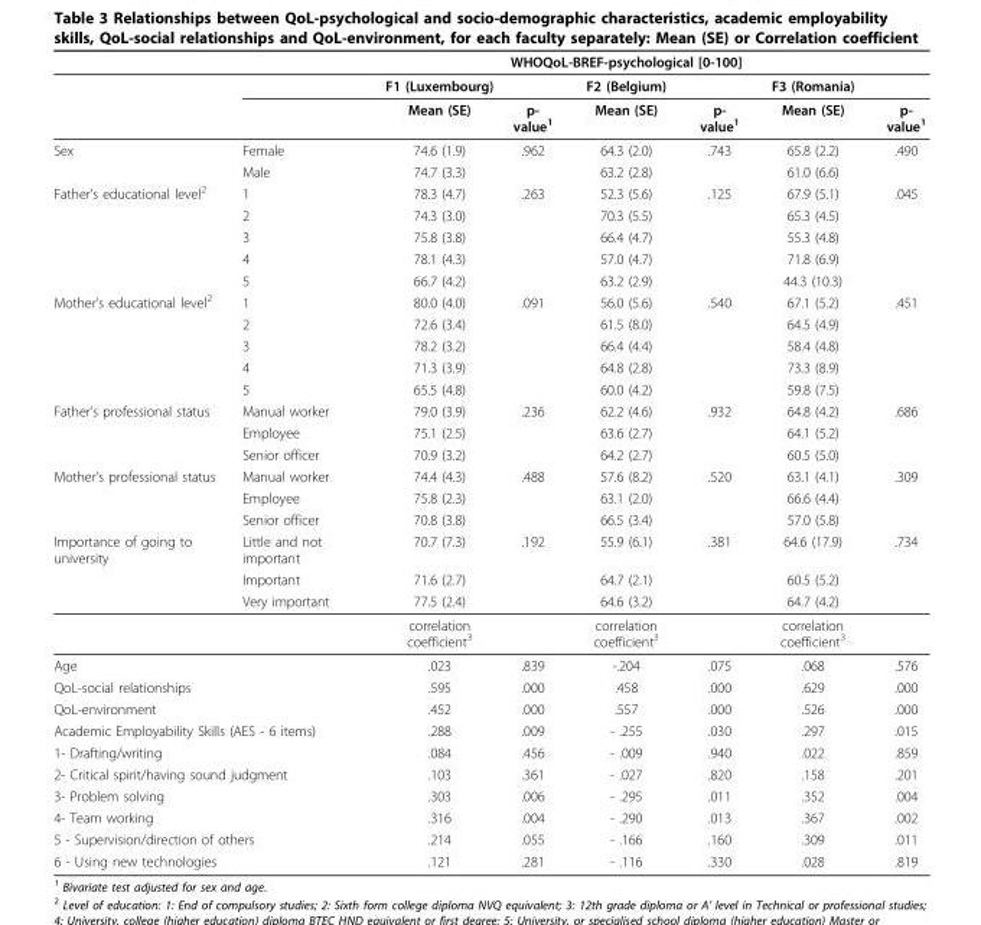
<table><thead><tr><td rowspan="2"></td><td rowspan="2"></td><td colspan="5">WHOQoL-BREF-psychological [0-100]</td><td rowspan="2"></td></tr><tr><td>F1 (Luxembourg)</td><td></td><td>F2 (Belgium)</td><td></td><td>F3 (Romania)</td></tr></thead><tbody><tr><td></td><td></td><td>Mean (SE)</td><td>p- value<sup>1</sup></td><td>Mean (SE)</td><td>p- value<sup>1</sup></td><td>Mean (SE)</td><td>p- value<sup>1</sup></td></tr><tr><td rowspan="2">Sex</td><td>Female</td><td>74.6 (1.9)</td><td>.962</td><td>64.3 (2.0)</td><td>.743</td><td>65.8 (2.2)</td><td>.490</td></tr><tr><td>Male</td><td>74.7 (3.3)</td><td></td><td>63.2 (2.8)</td><td></td><td>61.0 (6.6)</td><td></td></tr><tr><td rowspan="5">Father’s educational level<sup>2</sup></td><td>1</td><td>78.3 (4.7)</td><td>.263</td><td>52.3 (5.6)</td><td>.125</td><td>67.9 (5.1)</td><td>.045</td></tr><tr><td>2</td><td>74.3 (3.0)</td><td></td><td>70.3 (5.5)</td><td></td><td>65.3 (4.5)</td><td></td></tr><tr><td>3</td><td>75.8 (3.8)</td><td></td><td>66.4 (4.7)</td><td></td><td>55.3 (4.8)</td><td></td></tr><tr><td>4</td><td>78.1 (4.3)</td><td></td><td>57.0 (4.7)</td><td></td><td>71.8 (6.9)</td><td></td></tr><tr><td>5</td><td>66.7 (4.2)</td><td></td><td>63.2 (2.9)</td><td></td><td>44.3 (10.3)</td><td></td></tr><tr><td rowspan="5">Mother’s educational level<sup>2</sup></td><td>1</td><td>80.0 (4.0)</td><td>.091</td><td>56.0 (5.6)</td><td>.540</td><td>67.1 (5.2)</td><td>.451</td></tr><tr><td>2</td><td>72.6 (3.4)</td><td></td><td>61.5 (8.0)</td><td></td><td>64.5 (4.9)</td><td></td></tr><tr><td>3</td><td>78.2 (3.2)</td><td></td><td>66.4 (4.4)</td><td></td><td>58.4 (4.8)</td><td></td></tr><tr><td>4</td><td>71.3 (3.9)</td><td></td><td>64.8 (2.8)</td><td></td><td>73.3 (8.9)</td><td></td></tr><tr><td>5</td><td>65.5 (4.8)</td><td></td><td>60.0 (4.2)</td><td></td><td>59.8 (7.5)</td><td></td></tr><tr><td rowspan="3">Father’s professional status</td><td>Manual worker</td><td>79.0 (3.9)</td><td>.236</td><td>62.2 (4.6)</td><td>.932</td><td>64.8 (4.2)</td><td>.686</td></tr><tr><td>Employee</td><td>75.1 (2.5)</td><td></td><td>63.6 (2.7)</td><td></td><td>64.1 (5.2)</td><td></td></tr><tr><td>Senior officer</td><td>70.9 (3.2)</td><td></td><td>64.2 (2.7)</td><td></td><td>60.5 (5.0)</td><td></td></tr><tr><td rowspan="3">Mother’s professional status</td><td>Manual worker</td><td>74.4 (4.3)</td><td>.488</td><td>57.6 (8.2)</td><td>.520</td><td>63.1 (4.1)</td><td>.309</td></tr><tr><td>Employee</td><td>75.8 (2.3)</td><td></td><td>63.1 (2.0)</td><td></td><td>66.6 (4.4)</td><td></td></tr><tr><td>Senior officer</td><td>70.8 (3.8)</td><td></td><td>66.5 (3.4)</td><td></td><td>57.0 (5.8)</td><td></td></tr><tr><td rowspan="4">Importance of going to university</td><td>Little and not important</td><td>70.7 (7.3)</td><td>.192</td><td>55.9 (6.1)</td><td>.381</td><td>64.6 (17.9)</td><td>.734</td></tr><tr><td>Important</td><td>71.6 (2.7)</td><td></td><td>64.7 (2.1)</td><td></td><td>60.5 (5.2)</td><td></td></tr><tr><td>Very important</td><td>77.5 (2.4)</td><td></td><td>64.6 (3.2)</td><td></td><td>64.7 (4.2)</td><td></td></tr><tr><td></td><td>correlation coefficient<sup>3</sup></td><td></td><td>correlation coefficient<sup>3</sup></td><td></td><td>correlation coefficient<sup>3</sup></td><td></td></tr><tr><td>Age</td><td></td><td>.023</td><td>.839</td><td>-.204</td><td>.075</td><td>.068</td><td>.576</td></tr><tr><td colspan="2">QoL-social relationships</td><td>.595</td><td>.000</td><td>.458</td><td>.000</td><td>.629</td><td>.000</td></tr><tr><td colspan="2">QoL-environment</td><td>.452</td><td>.000</td><td>.557</td><td>.000</td><td>.526</td><td>.000</td></tr><tr><td colspan="2">Academic Employability Skills (AES - 6 items)</td><td>.288</td><td>.009</td><td>- .255</td><td>.030</td><td>.297</td><td>.015</td></tr><tr><td colspan="2">1- Drafting/writing</td><td>.084</td><td>.456</td><td>- .009</td><td>.940</td><td>.022</td><td>.859</td></tr><tr><td colspan="2">2- Critical spirit/having sound judgment</td><td>.103</td><td>.361</td><td>- .027</td><td>.820</td><td>.158</td><td>.201</td></tr><tr><td colspan="2">3- Problem solving</td><td>.303</td><td>.006</td><td>- .295</td><td>.011</td><td>.352</td><td>.004</td></tr><tr><td colspan="2">4- Team working</td><td>.316</td><td>.004</td><td>- .290</td><td>.013</td><td>.367</td><td>.002</td></tr><tr><td colspan="2">5 - Supervision/direction of others</td><td>.214</td><td>.055</td><td>- .166</td><td>.160</td><td>.309</td><td>.011</td></tr><tr><td colspan="2">6 - Using new technologies</td><td>.121</td><td>.281</td><td>- .116</td><td>.330</td><td>.028</td><td>.819</td></tr></tbody></table>